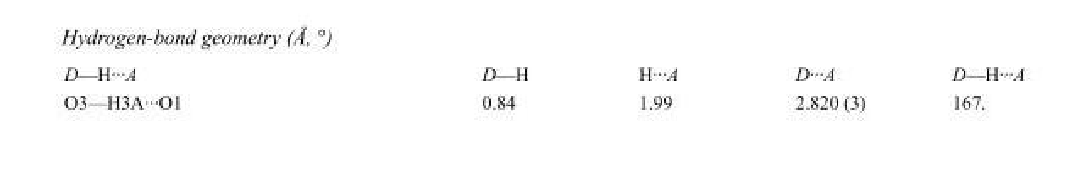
<table><tbody><tr><td>D—H···A</td><td>D—H</td><td>H···A</td><td>D···A</td><td>D—H···A</td></tr><tr><td>O3—H3A···O1</td><td>0.84</td><td>1.99</td><td>2.820 (3)</td><td>167.</td></tr></tbody></table>